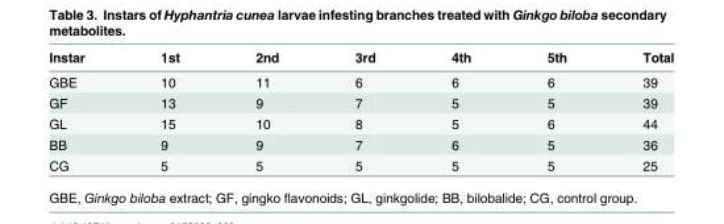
<table><thead><tr><td>Instar</td><td>1st</td><td>2nd</td><td>3rd</td><td>4th</td><td>5th</td><td>Total</td></tr></thead><tbody><tr><td>GBE</td><td>10</td><td>11</td><td>6</td><td>6</td><td>6</td><td>39</td></tr><tr><td>GF</td><td>13</td><td>9</td><td>7</td><td>5</td><td>5</td><td>39</td></tr><tr><td>GL</td><td>15</td><td>10</td><td>8</td><td>5</td><td>6</td><td>44</td></tr><tr><td>BB</td><td>9</td><td>9</td><td>7</td><td>6</td><td>5</td><td>36</td></tr><tr><td>CG</td><td>5</td><td>5</td><td>5</td><td>5</td><td>5</td><td>25</td></tr></tbody></table>